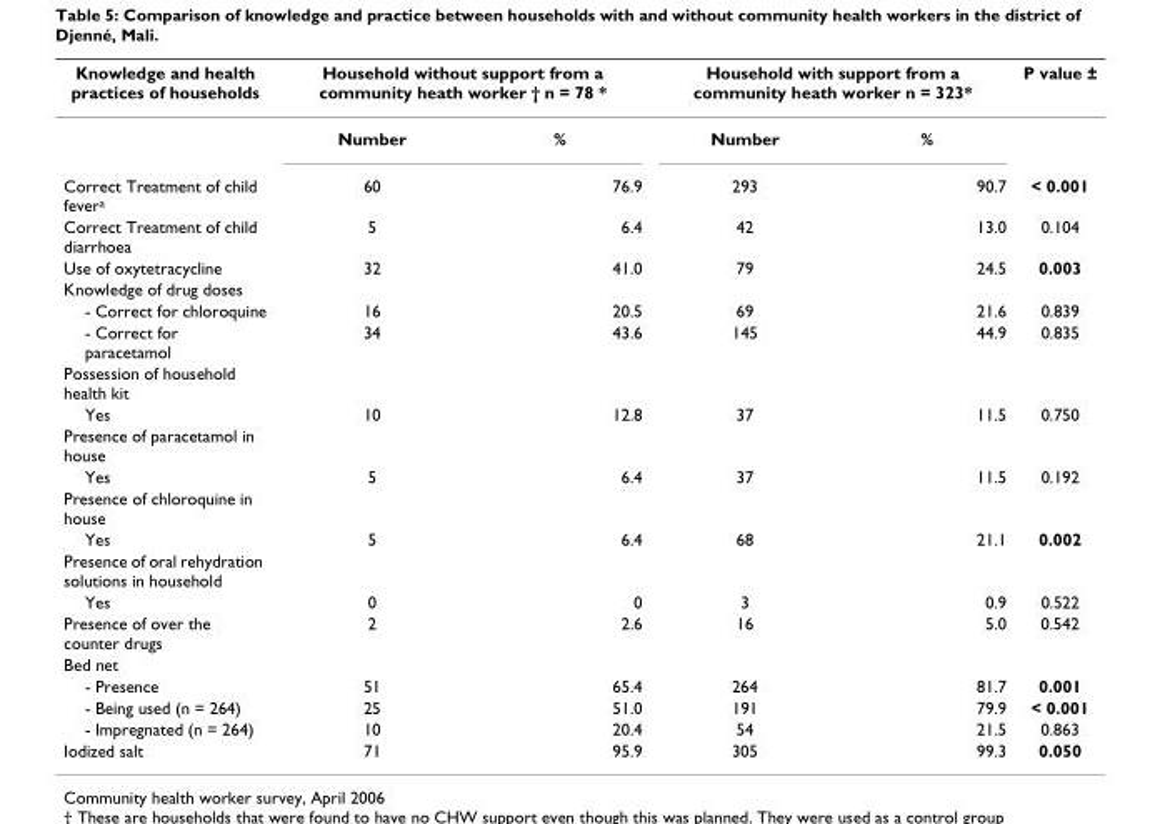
<table><thead><tr><td rowspan="2">Knowledge and health practices of households</td><td colspan="2">Household without support from a community heath worker † n = 78 *</td><td colspan="2">Household with support from a community heath worker n = 323*</td><td rowspan="2">P value ±</td></tr><tr><td>Number</td><td>%</td><td>Number</td><td>%</td></tr></thead><tbody><tr><td>Correct Treatment of child fever<sup>a</sup></td><td>60</td><td>76.9</td><td>293</td><td>90.7</td><td>&lt; 0.001</td></tr><tr><td>Correct Treatment of child diarrhoea</td><td>5</td><td>6.4</td><td>42</td><td>13.0</td><td>0.104</td></tr><tr><td>Use of oxytetracycline</td><td>32</td><td>41.0</td><td>79</td><td>24.5</td><td>0.003</td></tr><tr><td colspan="6">Knowledge of drug doses</td></tr><tr><td>- Correct for chloroquine</td><td>16</td><td>20.5</td><td>69</td><td>21.6</td><td>0.839</td></tr><tr><td>- Correct for paracetamol</td><td>34</td><td>43.6</td><td>145</td><td>44.9</td><td>0.835</td></tr><tr><td colspan="6">Possession of household health kit</td></tr><tr><td>Yes</td><td>10</td><td>12.8</td><td>37</td><td>11.5</td><td>0.750</td></tr><tr><td colspan="6">Presence of paracetamol in house</td></tr><tr><td>Yes</td><td>5</td><td>6.4</td><td>37</td><td>11.5</td><td>0.192</td></tr><tr><td colspan="6">Presence of chloroquine in house</td></tr><tr><td>Yes</td><td>5</td><td>6.4</td><td>68</td><td>21.1</td><td>0.002</td></tr><tr><td colspan="6">Presence of oral rehydration solutions in household</td></tr><tr><td>Yes</td><td>0</td><td>0</td><td>3</td><td>0.9</td><td>0.522</td></tr><tr><td>Presence of over the counter drugs</td><td>2</td><td>2.6</td><td>16</td><td>5.0</td><td>0.542</td></tr><tr><td colspan="6">Bed net</td></tr><tr><td>- Presence</td><td>51</td><td>65.4</td><td>264</td><td>81.7</td><td>0.001</td></tr><tr><td>- Being used (n = 264)</td><td>25</td><td>51.0</td><td>191</td><td>79.9</td><td>&lt; 0.001</td></tr><tr><td>- Impregnated (n = 264)</td><td>10</td><td>20.4</td><td>54</td><td>21.5</td><td>0.863</td></tr><tr><td>Iodized salt</td><td>71</td><td>95.9</td><td>305</td><td>99.3</td><td>0.050</td></tr></tbody></table>